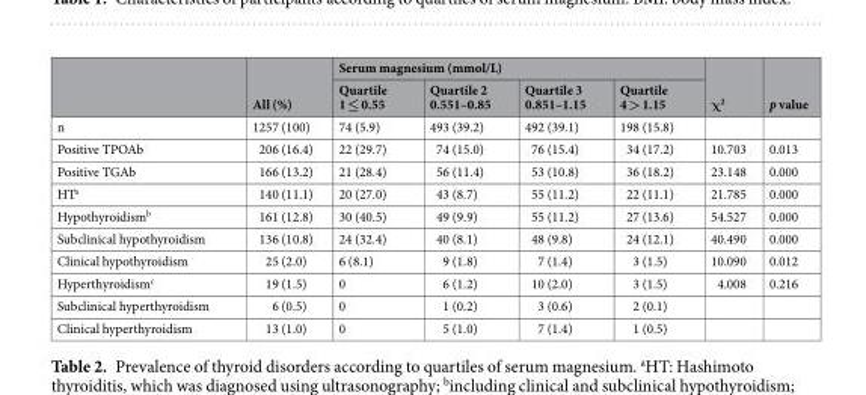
<table><thead><tr><td rowspan="2"></td><td rowspan="2">All (%)</td><td colspan="4">Serum magnesium (mmol/L)</td><td rowspan="2">χ<sup>2</sup></td><td rowspan="2">p value</td></tr><tr><td>Quartile 1 ≤ 0.55</td><td>Quartile 2 0.551–0.85</td><td>Quartile 3 0.851–1.15</td><td>Quartile 4 &gt; 1.15</td></tr></thead><tbody><tr><td>n</td><td>1257 (100)</td><td>74 (5.9)</td><td>493 (39.2)</td><td>492 (39.1)</td><td>198 (15.8)</td><td></td><td></td></tr><tr><td>Positive TPOAb</td><td>206 (16.4)</td><td>22 (29.7)</td><td>74 (15.0)</td><td>76 (15.4)</td><td>34 (17.2)</td><td>10.703</td><td>0.013</td></tr><tr><td>Positive TGAb</td><td>166 (13.2)</td><td>21 (28.4)</td><td>56 (11.4)</td><td>53 (10.8)</td><td>36 (18.2)</td><td>23.148</td><td>0.000</td></tr><tr><td>HT<sup>a</sup></td><td>140 (11.1)</td><td>20 (27.0)</td><td>43 (8.7)</td><td>55 (11.2)</td><td>22 (11.1)</td><td>21.785</td><td>0.000</td></tr><tr><td>Hypothyroidism<sup>b</sup></td><td>161 (12.8)</td><td>30 (40.5)</td><td>49 (9.9)</td><td>55 (11.2)</td><td>27 (13.6)</td><td>54.527</td><td>0.000</td></tr><tr><td>Subclinical hypothyroidism</td><td>136 (10.8)</td><td>24 (32.4)</td><td>40 (8.1)</td><td>48 (9.8)</td><td>24 (12.1)</td><td>40.490</td><td>0.000</td></tr><tr><td>Clinical hypothyroidism</td><td>25 (2.0)</td><td>6 (8.1)</td><td>9 (1.8)</td><td>7 (1.4)</td><td>3 (1.5)</td><td>10.090</td><td>0.012</td></tr><tr><td>Hyperthyroidism<sup>c</sup></td><td>19 (1.5)</td><td>0</td><td>6 (1.2)</td><td>10 (2.0)</td><td>3 (1.5)</td><td>4.008</td><td>0.216</td></tr><tr><td>Subclinical hyperthyroidism</td><td>6 (0.5)</td><td>0</td><td>1 (0.2)</td><td>3 (0.6)</td><td>2 (0.1)</td><td></td><td></td></tr><tr><td>Clinical hyperthyroidism</td><td>13 (1.0)</td><td>0</td><td>5 (1.0)</td><td>7 (1.4)</td><td>1 (0.5)</td><td></td><td></td></tr></tbody></table>